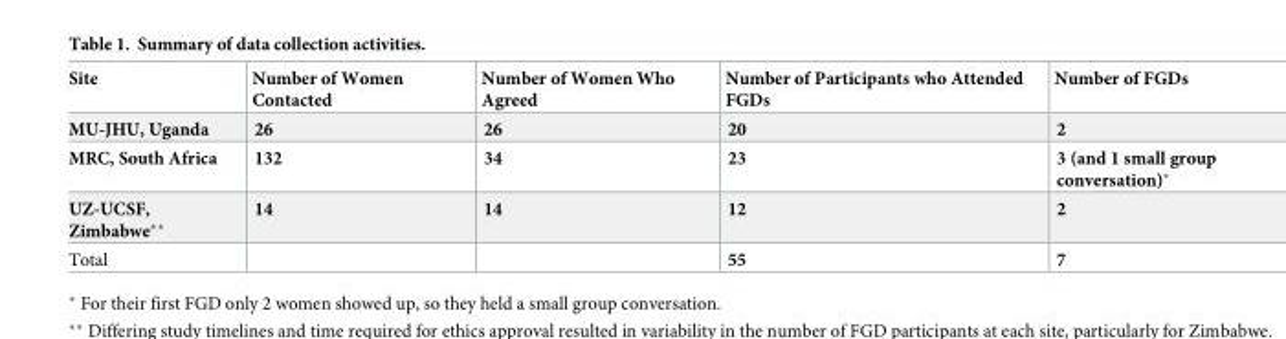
<table><thead><tr><td>Site</td><td>Number of Women Contacted</td><td>Number of Women Who Agreed</td><td>Number of Participants who Attended FGDs</td><td>Number of FGDs</td></tr></thead><tbody><tr><td>MU-JHU, Uganda</td><td>26</td><td>26</td><td>20</td><td>2</td></tr><tr><td>MRC, South Africa</td><td>132</td><td>34</td><td>23</td><td>3 (and 1 small group conversation)*</td></tr><tr><td>UZ-UCSF, Zimbabwe**</td><td>14</td><td>14</td><td>12</td><td>2</td></tr><tr><td>Total</td><td></td><td></td><td>55</td><td>7</td></tr></tbody></table>